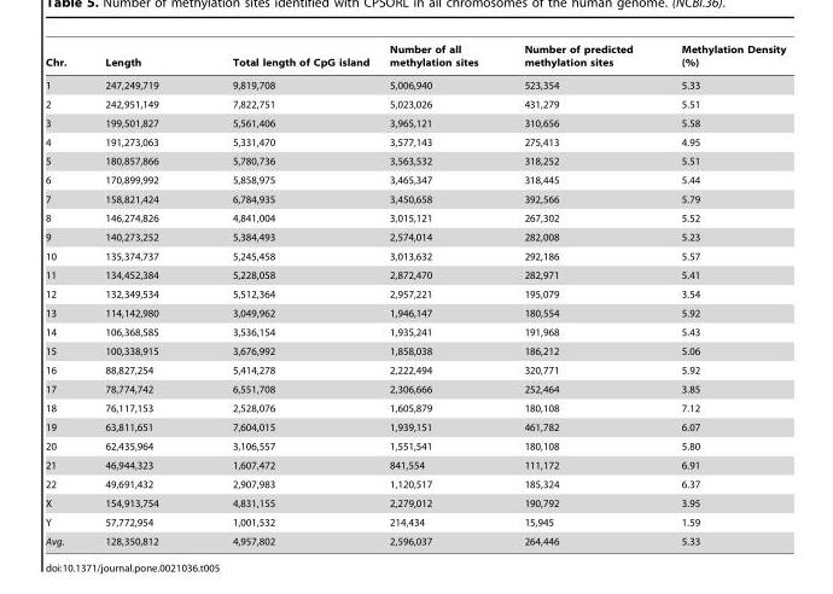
<table><thead><tr><td>Chr.</td><td>Length</td><td>Total length of CpG island</td><td>Number of all methylation sites</td><td>Number of predicted methylation sites</td><td>Methylation Density (%)</td></tr></thead><tbody><tr><td>1</td><td>247,249,719</td><td>9,819,708</td><td>5,006,940</td><td>523,354</td><td>5.33</td></tr><tr><td>2</td><td>242,951,149</td><td>7,822,751</td><td>5,023,026</td><td>431,279</td><td>5.51</td></tr><tr><td>3</td><td>199,501,827</td><td>5,561,406</td><td>3,965,121</td><td>310,656</td><td>5.58</td></tr><tr><td>4</td><td>191,273,063</td><td>5,331,470</td><td>3,577,143</td><td>275,413</td><td>4.95</td></tr><tr><td>5</td><td>180,857,866</td><td>5,780,736</td><td>3,563,532</td><td>318,252</td><td>5.51</td></tr><tr><td>6</td><td>170,899,992</td><td>5,858,975</td><td>3,465,347</td><td>318,445</td><td>5.44</td></tr><tr><td>7</td><td>158,821,424</td><td>6,784,935</td><td>3,450,658</td><td>392,566</td><td>5.79</td></tr><tr><td>8</td><td>146,274,826</td><td>4,841,004</td><td>3,015,121</td><td>267,302</td><td>5.52</td></tr><tr><td>9</td><td>140,273,252</td><td>5,384,493</td><td>2,574,014</td><td>282,008</td><td>5.23</td></tr><tr><td>10</td><td>135,374,737</td><td>5,245,458</td><td>3,013,632</td><td>292,186</td><td>5.57</td></tr><tr><td>11</td><td>134,452,384</td><td>5,228,058</td><td>2,872,470</td><td>282,971</td><td>5.41</td></tr><tr><td>12</td><td>132,349,534</td><td>5,512,364</td><td>2,957,221</td><td>195,079</td><td>3.54</td></tr><tr><td>13</td><td>114,142,980</td><td>3,049,962</td><td>1,946,147</td><td>180,554</td><td>5.92</td></tr><tr><td>14</td><td>106,368,585</td><td>3,536,154</td><td>1,935,241</td><td>191,968</td><td>5.43</td></tr><tr><td>15</td><td>100,338,915</td><td>3,676,992</td><td>1,858,038</td><td>186,212</td><td>5.06</td></tr><tr><td>16</td><td>88,827,254</td><td>5,414,278</td><td>2,222,494</td><td>320,771</td><td>5.92</td></tr><tr><td>17</td><td>78,774,742</td><td>6,551,708</td><td>2,306,666</td><td>252,464</td><td>3.85</td></tr><tr><td>18</td><td>76,117,153</td><td>2,528,076</td><td>1,605,879</td><td>180,108</td><td>7.12</td></tr><tr><td>19</td><td>63,811,651</td><td>7,604,015</td><td>1,939,151</td><td>461,782</td><td>6.07</td></tr><tr><td>20</td><td>62,435,964</td><td>3,106,557</td><td>1,551,541</td><td>180,108</td><td>5.80</td></tr><tr><td>21</td><td>46,944,323</td><td>1,607,472</td><td>841,554</td><td>111,172</td><td>6.91</td></tr><tr><td>22</td><td>49,691,432</td><td>2,907,983</td><td>1,120,517</td><td>185,324</td><td>6.37</td></tr><tr><td>X</td><td>154,913,754</td><td>4,831,155</td><td>2,279,012</td><td>190,792</td><td>3.95</td></tr><tr><td>Y</td><td>57,772,954</td><td>1,001,532</td><td>214,434</td><td>15,945</td><td>1.59</td></tr><tr><td>Avg.</td><td>128,350,812</td><td>4,957,802</td><td>2,596,037</td><td>264,446</td><td>5.33</td></tr></tbody></table>